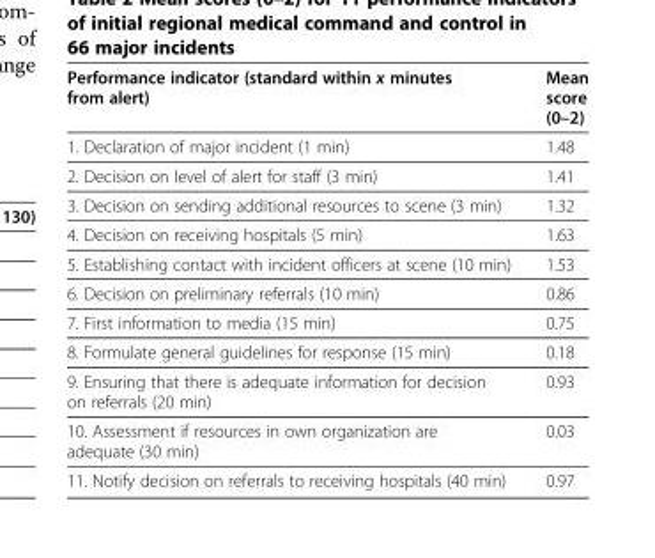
<table><thead><tr><td>Performance indicator (standard within x minutes from alert)</td><td>Mean score (0–2)</td></tr></thead><tbody><tr><td>1. Declaration of major incident (1 min)</td><td>1.48</td></tr><tr><td>2. Decision on level of alert for staff (3 min)</td><td>1.41</td></tr><tr><td>3. Decision on sending additional resources to scene (3 min)</td><td>1.32</td></tr><tr><td>4. Decision on receiving hospitals (5 min)</td><td>1.63</td></tr><tr><td>5. Establishing contact with incident officers at scene (10 min)</td><td>1.53</td></tr><tr><td>6. Decision on preliminary referrals (10 min)</td><td>0.86</td></tr><tr><td>7. First information to media (15 min)</td><td>0.75</td></tr><tr><td>8. Formulate general guidelines for response (15 min)</td><td>0.18</td></tr><tr><td>9. Ensuring that there is adequate information for decision on referrals (20 min)</td><td>0.93</td></tr><tr><td>10. Assessment if resources in own organization are adequate (30 min)</td><td>0.03</td></tr><tr><td>11. Notify decision on referrals to receiving hospitals (40 min)</td><td>0.97</td></tr></tbody></table>